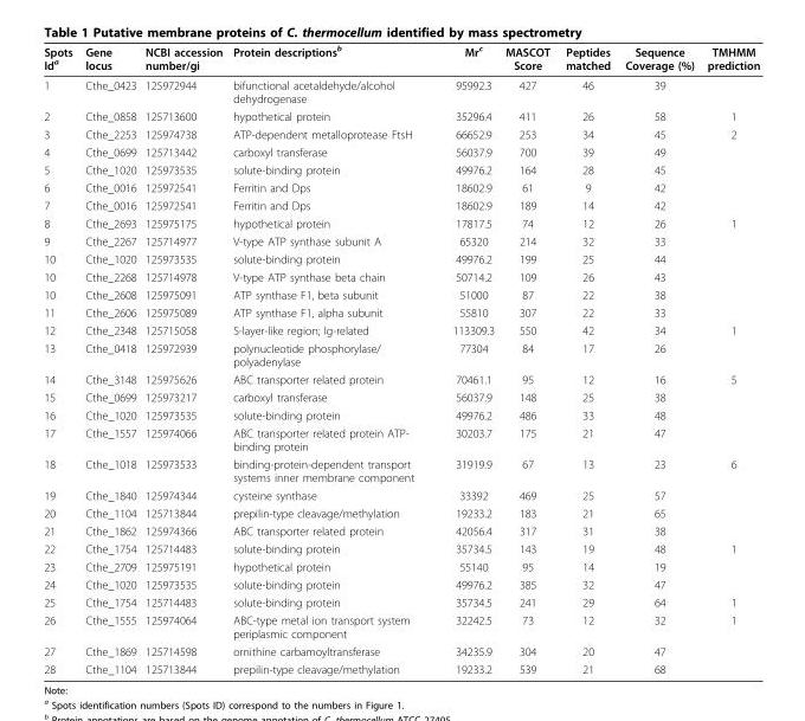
<table><thead><tr><td>Spots Id<sup>a</sup></td><td>Gene locus</td><td>NCBI accession number/gi</td><td>Protein descriptions<sup>b</sup></td><td>Mr<sup>c</sup></td><td>MASCOT Score</td><td>Peptides matched</td><td>Sequence Coverage (%)</td><td>TMHMM prediction</td></tr></thead><tbody><tr><td>1</td><td>Cthe_0423</td><td>125972944</td><td>bifunctional acetaldehyde/alcohol dehydrogenase</td><td>95992.3</td><td>427</td><td>46</td><td>39</td><td></td></tr><tr><td>2</td><td>Cthe_0858</td><td>125713600</td><td>hypothetical protein</td><td>35296.4</td><td>411</td><td>26</td><td>58</td><td>1</td></tr><tr><td>3</td><td>Cthe_2253</td><td>125974738</td><td>ATP-dependent metalloprotease FtsH</td><td>66652.9</td><td>253</td><td>34</td><td>45</td><td>2</td></tr><tr><td>4</td><td>Cthe_0699</td><td>125713442</td><td>carboxyl transferase</td><td>56037.9</td><td>700</td><td>39</td><td>49</td><td></td></tr><tr><td>5</td><td>Cthe_1020</td><td>125973535</td><td>solute-binding protein</td><td>49976.2</td><td>164</td><td>28</td><td>45</td><td></td></tr><tr><td>6</td><td>Cthe_0016</td><td>125972541</td><td>Ferritin and Dps</td><td>18602.9</td><td>61</td><td>9</td><td>42</td><td></td></tr><tr><td>7</td><td>Cthe_0016</td><td>125972541</td><td>Ferritin and Dps</td><td>18602.9</td><td>189</td><td>14</td><td>42</td><td></td></tr><tr><td>8</td><td>Cthe_2693</td><td>125975175</td><td>hypothetical protein</td><td>17817.5</td><td>74</td><td>12</td><td>26</td><td>1</td></tr><tr><td>9</td><td>Cthe_2267</td><td>125714977</td><td>V-type ATP synthase subunit A</td><td>65320</td><td>214</td><td>32</td><td>33</td><td></td></tr><tr><td>10</td><td>Cthe_1020</td><td>125973535</td><td>solute-binding protein</td><td>49976.2</td><td>199</td><td>25</td><td>44</td><td></td></tr><tr><td>10</td><td>Cthe_2268</td><td>125714978</td><td>V-type ATP synthase beta chain</td><td>50714.2</td><td>109</td><td>26</td><td>43</td><td></td></tr><tr><td>10</td><td>Cthe_2608</td><td>125975091</td><td>ATP synthase F1, beta subunit</td><td>51000</td><td>87</td><td>22</td><td>38</td><td></td></tr><tr><td>11</td><td>Cthe_2606</td><td>125975089</td><td>ATP synthase F1, alpha subunit</td><td>55810</td><td>307</td><td>22</td><td>33</td><td></td></tr><tr><td>12</td><td>Cthe_2348</td><td>125715058</td><td>S-layer-like region; Ig-related</td><td>113309.3</td><td>550</td><td>42</td><td>34</td><td>1</td></tr><tr><td>13</td><td>Cthe_0418</td><td>125972939</td><td>polynucleotide phosphorylase/ polyadenylase</td><td>77304</td><td>84</td><td>17</td><td>26</td><td></td></tr><tr><td>14</td><td>Cthe_3148</td><td>125975626</td><td>ABC transporter related protein</td><td>70461.1</td><td>95</td><td>12</td><td>16</td><td>5</td></tr><tr><td>15</td><td>Cthe_0699</td><td>125973217</td><td>carboxyl transferase</td><td>56037.9</td><td>148</td><td>25</td><td>38</td><td></td></tr><tr><td>16</td><td>Cthe_1020</td><td>125973535</td><td>solute-binding protein</td><td>49976.2</td><td>486</td><td>33</td><td>48</td><td></td></tr><tr><td>17</td><td>Cthe_1557</td><td>125974066</td><td>ABC transporter related protein ATP- binding protein</td><td>30203.7</td><td>175</td><td>21</td><td>47</td><td></td></tr><tr><td>18</td><td>Cthe_1018</td><td>125973533</td><td>binding-protein-dependent transport systems inner membrane component</td><td>31919.9</td><td>67</td><td>13</td><td>23</td><td>6</td></tr><tr><td>19</td><td>Cthe_1840</td><td>125974344</td><td>cysteine synthase</td><td>33392</td><td>469</td><td>25</td><td>57</td><td></td></tr><tr><td>20</td><td>Cthe_1104</td><td>125713844</td><td>prepilin-type cleavage/methylation</td><td>19233.2</td><td>183</td><td>21</td><td>65</td><td></td></tr><tr><td>21</td><td>Cthe_1862</td><td>125974366</td><td>ABC transporter related protein</td><td>42056.4</td><td>317</td><td>31</td><td>38</td><td></td></tr><tr><td>22</td><td>Cthe_1754</td><td>125714483</td><td>solute-binding protein</td><td>35734.5</td><td>143</td><td>19</td><td>48</td><td>1</td></tr><tr><td>23</td><td>Cthe_2709</td><td>125975191</td><td>hypothetical protein</td><td>55140</td><td>95</td><td>14</td><td>19</td><td></td></tr><tr><td>24</td><td>Cthe_1020</td><td>125973535</td><td>solute-binding protein</td><td>49976.2</td><td>385</td><td>32</td><td>47</td><td></td></tr><tr><td>25</td><td>Cthe_1754</td><td>125714483</td><td>solute-binding protein</td><td>35734.5</td><td>241</td><td>29</td><td>64</td><td>1</td></tr><tr><td>26</td><td>Cthe_1555</td><td>125974064</td><td>ABC-type metal ion transport system periplasmic component</td><td>32242.5</td><td>73</td><td>12</td><td>32</td><td>1</td></tr><tr><td>27</td><td>Cthe_1869</td><td>125714598</td><td>ornithine carbamoyltransferase</td><td>34235.9</td><td>304</td><td>20</td><td>47</td><td></td></tr><tr><td>28</td><td>Cthe_1104</td><td>125713844</td><td>prepilin-type cleavage/methylation</td><td>19233.2</td><td>539</td><td>21</td><td>68</td><td></td></tr></tbody></table>